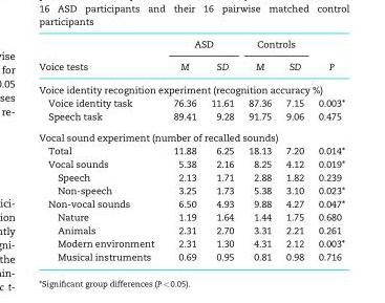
<table><thead><tr><td rowspan="2">Voice tests</td><td colspan="2">ASD</td><td colspan="2">Controls</td><td rowspan="2">P</td></tr><tr><td>M</td><td>SD</td><td>M</td><td>SD</td></tr></thead><tbody><tr><td colspan="6">Voice identity recognition experiment (recognition accuracy %)</td></tr><tr><td>Voice identity task</td><td>76.36</td><td>11.61</td><td>87.36</td><td>7.15</td><td>0.003*</td></tr><tr><td>Speech task</td><td>89.41</td><td>9.28</td><td>91.75</td><td>9.06</td><td>0.475</td></tr><tr><td colspan="6">Vocal sound experiment (number of recalled sounds)</td></tr><tr><td>Total</td><td>11.88</td><td>6.25</td><td>18.13</td><td>7.20</td><td>0.014*</td></tr><tr><td>Vocal sounds</td><td>5.38</td><td>2.16</td><td>8.25</td><td>4.12</td><td>0.019*</td></tr><tr><td>Speech</td><td>2.13</td><td>1.71</td><td>2.88</td><td>1.82</td><td>0.239</td></tr><tr><td>Non-speech</td><td>3.25</td><td>1.73</td><td>5.38</td><td>3.10</td><td>0.023*</td></tr><tr><td>Non-vocal sounds</td><td>6.50</td><td>4.93</td><td>9.88</td><td>4.27</td><td>0.047*</td></tr><tr><td>Nature</td><td>1.19</td><td>1.64</td><td>1.44</td><td>1.75</td><td>0.680</td></tr><tr><td>Animals</td><td>2.31</td><td>2.70</td><td>3.31</td><td>2.21</td><td>0.261</td></tr><tr><td>Modern environment</td><td>2.31</td><td>1.30</td><td>4.31</td><td>2.12</td><td>0.003*</td></tr><tr><td>Musical instruments</td><td>0.69</td><td>0.95</td><td>0.81</td><td>0.98</td><td>0.716</td></tr></tbody></table>